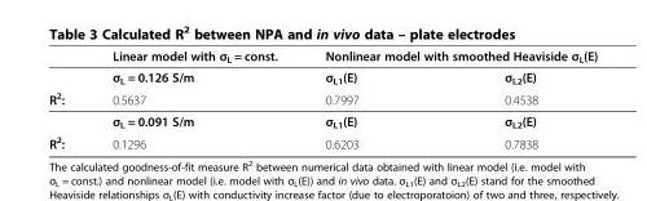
<table><thead><tr><td rowspan="2"></td><td rowspan="2">Linear model with σ<sub>L</sub> = const. σ<sub>L</sub> = 0.126 S/m</td><td colspan="2">Nonlinear model with smoothed Heaviside σ<sub>L</sub>(E)</td></tr><tr><td>σ<sub>L1</sub>(E)</td><td>σ<sub>L2</sub>(E)</td></tr></thead><tbody><tr><td rowspan="2">R<sup>2</sup>:</td><td>0.5637</td><td>0.7997</td><td>0.4538</td></tr><tr><td>σ<sub>L</sub> = 0.091 S/m</td><td>σ<sub>L1</sub>(E)</td><td>σ<sub>L2</sub>(E)</td></tr><tr><td>R<sup>2</sup>:</td><td>0.1296</td><td>0.6203</td><td>0.7838</td></tr></tbody></table>